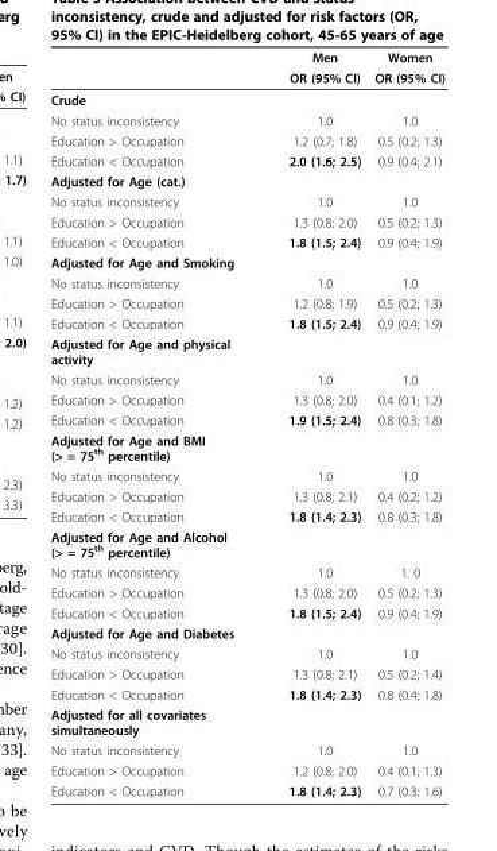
<table><thead><tr><td rowspan="2"></td><td rowspan="2">Men OR (95% CI)</td><td rowspan="2">Women OR (95% CI)</td></tr><tr></tr></thead><tbody><tr><td colspan="3">Crude</td></tr><tr><td>No status inconsistency</td><td>1.0</td><td>1.0</td></tr><tr><td>Education &gt; Occupation</td><td>1.2 (0.7; 1.8)</td><td>0.5 (0.2; 1.3)</td></tr><tr><td>Education &lt; Occupation</td><td>2.0 (1.6; 2.5)</td><td>0.9 (0.4; 2.1)</td></tr><tr><td colspan="3">Adjusted for Age (cat.)</td></tr><tr><td>No status inconsistency</td><td>1.0</td><td>1.0</td></tr><tr><td>Education &gt; Occupation</td><td>1.3 (0.8; 2.0)</td><td>0.5 (0.2; 1.3)</td></tr><tr><td>Education &lt; Occupation</td><td>1.8 (1.5; 2.4)</td><td>0.9 (0.4; 1.9)</td></tr><tr><td colspan="3">Adjusted for Age and Smoking</td></tr><tr><td>No status inconsistency</td><td>1.0</td><td>1.0</td></tr><tr><td>Education &gt; Occupation</td><td>1.2 (0.8; 1.9)</td><td>0.5 (0.2; 1.3)</td></tr><tr><td>Education &lt; Occupation</td><td>1.8 (1.5; 2.4)</td><td>0.9 (0.4; 1.9)</td></tr><tr><td colspan="3">Adjusted for Age and physical activity</td></tr><tr><td>No status inconsistency</td><td>1.0</td><td>1.0</td></tr><tr><td>Education &gt; Occupation</td><td>1.3 (0.8; 2.0)</td><td>0.4 (0.1; 1.2)</td></tr><tr><td>Education &lt; Occupation</td><td>1.9 (1.5; 2.4)</td><td>0.8 (0.3; 1.8)</td></tr><tr><td colspan="3">Adjusted for Age and BMI (&gt; = 75<sup>th</sup> percentile)</td></tr><tr><td>No status inconsistency</td><td>1.0</td><td>1.0</td></tr><tr><td>Education &gt; Occupation</td><td>1.3 (0.8; 2.1)</td><td>0.4 (0.2; 1.2)</td></tr><tr><td>Education &lt; Occupation</td><td>1.8 (1.4; 2.3)</td><td>0.8 (0.3; 1.8)</td></tr><tr><td colspan="3">Adjusted for Age and Alcohol (&gt; = 75<sup>th</sup> percentile)</td></tr><tr><td>No status inconsistency</td><td>1.0</td><td>1. 0</td></tr><tr><td>Education &gt; Occupation</td><td>1.3 (0.8; 2.0)</td><td>0.5 (0.2; 1.3)</td></tr><tr><td>Education &lt; Occupation</td><td>1.8 (1.5; 2.4)</td><td>0.9 (0.4; 1.9)</td></tr><tr><td colspan="3">Adjusted for Age and Diabetes</td></tr><tr><td>No status inconsistency</td><td>1.0</td><td>1.0</td></tr><tr><td>Education &gt; Occupation</td><td>1.3 (0.8; 2.1)</td><td>0.5 (0.2; 1.4)</td></tr><tr><td>Education &lt; Occupation</td><td>1.8 (1.4; 2.3)</td><td>0.8 (0.4; 1.8)</td></tr><tr><td colspan="3">Adjusted for all covariates simultaneously</td></tr><tr><td>No status inconsistency</td><td>1.0</td><td>1.0</td></tr><tr><td>Education &gt; Occupation</td><td>1.2 (0.8; 2.0)</td><td>0.4 (0.1; 1.3)</td></tr><tr><td>Education &lt; Occupation</td><td>1.8 (1.4; 2.3)</td><td>0.7 (0.3; 1.6)</td></tr></tbody></table>